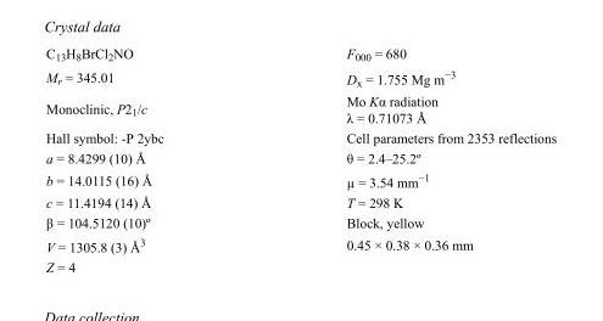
<table><tbody><tr><td>C<sub>13</sub>H<sub>8</sub>BrCl<sub>2</sub>NO</td><td>F000 = 680</td></tr><tr><td>M<sub>r</sub> = 345.01</td><td>D<sub>x</sub> = 1.755 Mg m<sup>−3</sup></td></tr><tr><td>Monoclinic, P2<sub>1</sub>/c</td><td>Mo Kα radiation λ = 0.71073 Å</td></tr><tr><td>Hall symbol: -P 2ybc</td><td>Cell parameters from 2353 reflections</td></tr><tr><td>a = 8.4299 (10) Å</td><td>θ = 2.4–25.2º</td></tr><tr><td>b = 14.0115 (16) Å</td><td>µ = 3.54 mm<sup>−1</sup></td></tr><tr><td>c = 11.4194 (14) Å</td><td>T = 298 K</td></tr><tr><td>β = 104.5120 (10)º</td><td>Block, yellow</td></tr><tr><td>V = 1305.8 (3) Å<sup>3</sup></td><td>0.45 × 0.38 × 0.36 mm</td></tr><tr><td>Z = 4</td><td></td></tr></tbody></table>